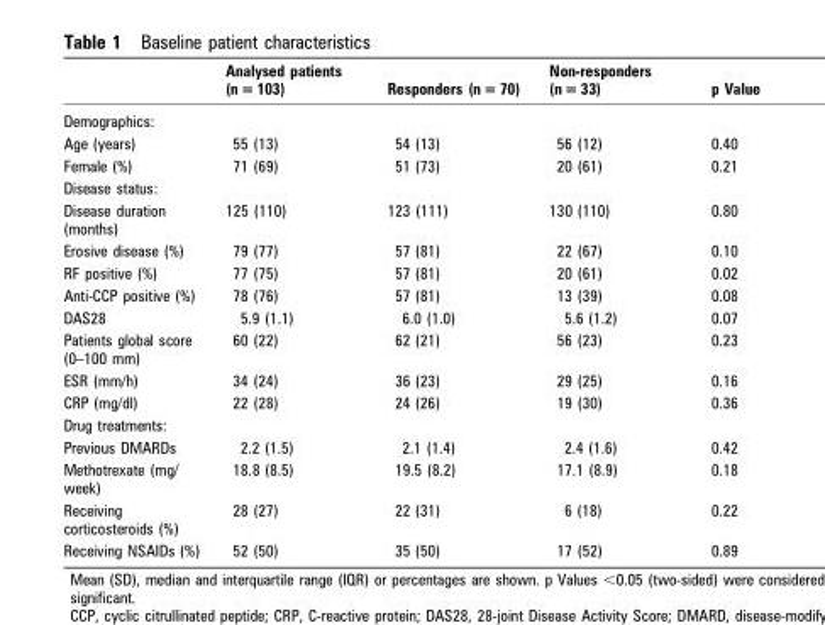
<table><thead><tr><td></td><td>Analysed patients (n = 103)</td><td>Responders (n = 70)</td><td>Non-responders (n = 33)</td><td>p Value</td></tr></thead><tbody><tr><td colspan="5">Demographics:</td></tr><tr><td>Age (years)</td><td>55 (13)</td><td>54 (13)</td><td>56 (12)</td><td>0.40</td></tr><tr><td>Female (%)</td><td>71 (69)</td><td>51 (73)</td><td>20 (61)</td><td>0.21</td></tr><tr><td colspan="5">Disease status:</td></tr><tr><td>Disease duration (months)</td><td>125 (110)</td><td>123 (111)</td><td>130 (110)</td><td>0.80</td></tr><tr><td>Erosive disease (%)</td><td>79 (77)</td><td>57 (81)</td><td>22 (67)</td><td>0.10</td></tr><tr><td>RF positive (%)</td><td>77 (75)</td><td>57 (81)</td><td>20 (61)</td><td>0.02</td></tr><tr><td>Anti-CCP positive (%)</td><td>78 (76)</td><td>57 (81)</td><td>13 (39)</td><td>0.08</td></tr><tr><td>DAS28</td><td>5.9 (1.1)</td><td>6.0 (1.0)</td><td>5.6 (1.2)</td><td>0.07</td></tr><tr><td>Patients global score (0–100 mm)</td><td>60 (22)</td><td>62 (21)</td><td>56 (23)</td><td>0.23</td></tr><tr><td>ESR (mm/h)</td><td>34 (24)</td><td>36 (23)</td><td>29 (25)</td><td>0.16</td></tr><tr><td>CRP (mg/dl)</td><td>22 (28)</td><td>24 (26)</td><td>19 (30)</td><td>0.36</td></tr><tr><td colspan="5">Drug treatments:</td></tr><tr><td>Previous DMARDs</td><td>2.2 (1.5)</td><td>2.1 (1.4)</td><td>2.4 (1.6)</td><td>0.42</td></tr><tr><td>Methotrexate (mg/ week)</td><td>18.8 (8.5)</td><td>19.5 (8.2)</td><td>17.1 (8.9)</td><td>0.18</td></tr><tr><td>Receiving corticosteroids (%)</td><td>28 (27)</td><td>22 (31)</td><td>6 (18)</td><td>0.22</td></tr><tr><td>Receiving NSAIDs (%)</td><td>52 (50)</td><td>35 (50)</td><td>17 (52)</td><td>0.89</td></tr></tbody></table>